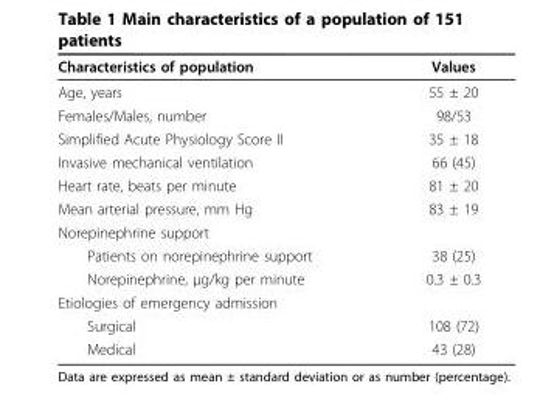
<table><thead><tr><td>Characteristics of population</td><td>Values</td></tr></thead><tbody><tr><td>Age, years</td><td>55 ± 20</td></tr><tr><td>Females/Males, number</td><td>98/53</td></tr><tr><td>Simplified Acute Physiology Score II</td><td>35 ± 18</td></tr><tr><td>Invasive mechanical ventilation</td><td>66 (45)</td></tr><tr><td>Heart rate, beats per minute</td><td>81 ± 20</td></tr><tr><td>Mean arterial pressure, mm Hg</td><td>83 ± 19</td></tr><tr><td colspan="2">Norepinephrine support</td></tr><tr><td>Patients on norepinephrine support</td><td>38 (25)</td></tr><tr><td>Norepinephrine, μg/kg per minute</td><td>0.3 ± 0.3</td></tr><tr><td colspan="2">Etiologies of emergency admission</td></tr><tr><td>Surgical</td><td>108 (72)</td></tr><tr><td>Medical</td><td>43 (28)</td></tr></tbody></table>